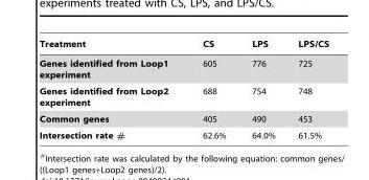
<table><thead><tr><td>Treatment</td><td>CS</td><td>LPS</td><td>LPS/CS</td></tr></thead><tbody><tr><td>Genes identified from Loop1 experiment</td><td>605</td><td>776</td><td>725</td></tr><tr><td>Genes identified from Loop2 experiment</td><td>688</td><td>754</td><td>748</td></tr><tr><td>Common genes</td><td>405</td><td>490</td><td>453</td></tr><tr><td>Intersection rate #</td><td>62.6%</td><td>64.0%</td><td>61.5%</td></tr></tbody></table>